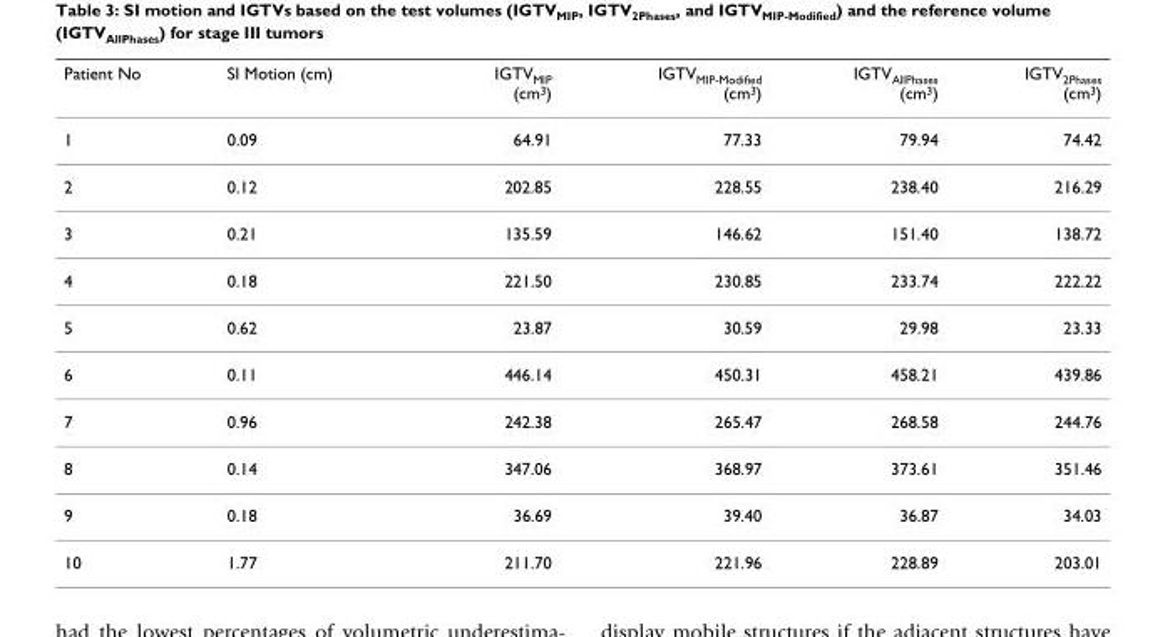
<table><thead><tr><td>Patient No</td><td>SI Motion (cm)</td><td>IGTV<sub>MIP</sub> (cm<sup>3</sup>)</td><td>IGTV<sub>MIP-Modified</sub> (cm<sup>3</sup>)</td><td>IGTV<sub>AllPhases</sub> (cm<sup>3</sup>)</td><td>IGTV<sub>2Phases</sub> (cm<sup>3</sup>)</td></tr></thead><tbody><tr><td>1</td><td>0.09</td><td>64.91</td><td>77.33</td><td>79.94</td><td>74.42</td></tr><tr><td>2</td><td>0.12</td><td>202.85</td><td>228.55</td><td>238.40</td><td>216.29</td></tr><tr><td>3</td><td>0.21</td><td>135.59</td><td>146.62</td><td>151.40</td><td>138.72</td></tr><tr><td>4</td><td>0.18</td><td>221.50</td><td>230.85</td><td>233.74</td><td>222.22</td></tr><tr><td>5</td><td>0.62</td><td>23.87</td><td>30.59</td><td>29.98</td><td>23.33</td></tr><tr><td>6</td><td>0.11</td><td>446.14</td><td>450.31</td><td>458.21</td><td>439.86</td></tr><tr><td>7</td><td>0.96</td><td>242.38</td><td>265.47</td><td>268.58</td><td>244.76</td></tr><tr><td>8</td><td>0.14</td><td>347.06</td><td>368.97</td><td>373.61</td><td>351.46</td></tr><tr><td>9</td><td>0.18</td><td>36.69</td><td>39.40</td><td>36.87</td><td>34.03</td></tr><tr><td>10</td><td>1.77</td><td>211.70</td><td>221.96</td><td>228.89</td><td>203.01</td></tr></tbody></table>